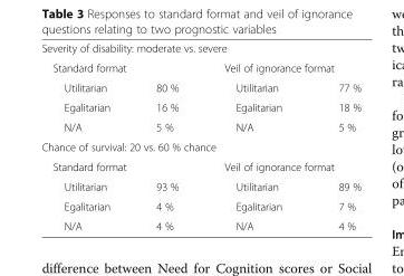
<table><tbody><tr><td colspan="4">Severity of disability: moderate vs. severe</td></tr><tr><td colspan="2">Standard format</td><td colspan="2">Veil of ignorance format</td></tr><tr><td>Utilitarian</td><td>80 %</td><td>Utilitarian</td><td>77 %</td></tr><tr><td>Egalitarian</td><td>16 %</td><td>Egalitarian</td><td>18 %</td></tr><tr><td>N/A</td><td>5 %</td><td>N/A</td><td>5 %</td></tr><tr><td colspan="4">Chance of survival: 20 vs. 60 % chance</td></tr><tr><td colspan="2">Standard format</td><td colspan="2">Veil of ignorance format</td></tr><tr><td>Utilitarian</td><td>93 %</td><td>Utilitarian</td><td>89 %</td></tr><tr><td>Egalitarian</td><td>4 %</td><td>Egalitarian</td><td>7 %</td></tr><tr><td>N/A</td><td>4 %</td><td>N/A</td><td>4 %</td></tr></tbody></table>